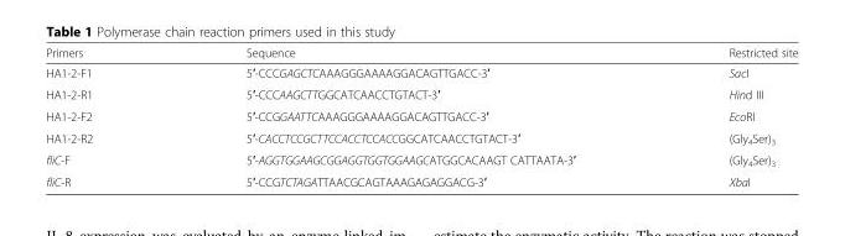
<table><thead><tr><td>Primers</td><td>Sequence</td><td>Restricted site</td></tr></thead><tbody><tr><td>HA1-2-F1</td><td>5′-CCCGAGCTCAAAGGGAAAAGGACAGTTGACC-3′</td><td>SacI</td></tr><tr><td>HA1-2-R1</td><td>5′-CCCAAGCTTGGCATCAACCTGTACT-3′</td><td>Hind III</td></tr><tr><td>HA1-2-F2</td><td>5′-CCGGAATTCAAAGGGAAAAGGACAGTTGACC-3′</td><td>EcoRI</td></tr><tr><td>HA1-2-R2</td><td>5′-CACCTCCGCTTCCACCTCCACCGGCATCAACCTGTACT-3′</td><td>(Gly<sub>4</sub>Ser)<sub>3</sub></td></tr><tr><td>fliC-F</td><td>5′-AGGTGGAAGCGGAGGTGGTGGAAGCATGGCACAAGT CATTAATA-3′</td><td>(Gly<sub>4</sub>Ser)<sub>3</sub></td></tr><tr><td>fliC-R</td><td>5′-CCGTCTAGATTAACGCAGTAAAGAGAGGACG-3′</td><td>XbaI</td></tr></tbody></table>